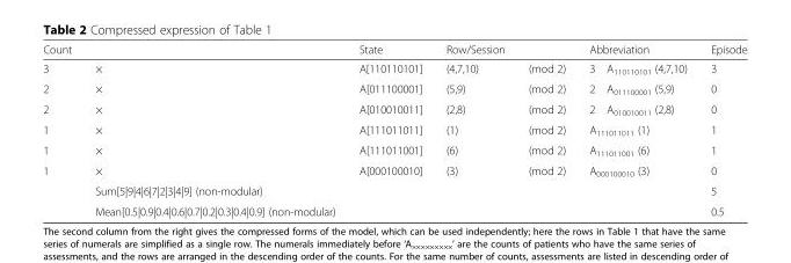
<table><thead><tr><td>Count</td><td></td><td>State</td><td>Row/Session</td><td></td><td>Abbreviation</td><td>Episode</td></tr></thead><tbody><tr><td>3</td><td>×</td><td>A[110110101]</td><td>(4,7,10)</td><td>(mod 2)</td><td>3 A110110101 (4,7,10)</td><td>3</td></tr><tr><td>2</td><td>×</td><td>A[011100001]</td><td>(5,9)</td><td>(mod 2)</td><td>2 A011100001 (5,9)</td><td>0</td></tr><tr><td>2</td><td>×</td><td>A[010010011]</td><td>(2,8)</td><td>(mod 2)</td><td>2 A010010011 (2,8)</td><td>0</td></tr><tr><td>1</td><td>×</td><td>A[111011011]</td><td>(1)</td><td>(mod 2)</td><td>A<sub>111011011</sub> (1)</td><td>1</td></tr><tr><td>1</td><td>×</td><td>A[111011001]</td><td>(6)</td><td>(mod 2)</td><td>A<sub>111011001</sub> (6)</td><td>1</td></tr><tr><td rowspan="3">1</td><td>×</td><td>A[000100010]</td><td>(3)</td><td>(mod 2)</td><td>A<sub>000100010</sub> (3)</td><td>0</td></tr><tr><td>Sum[5|9|4|6|7|2|3|4|9] (non-modular)</td><td></td><td></td><td></td><td></td><td>5</td></tr><tr><td>Mean[0.5|0.9|0.4|0.6|0.7|0.2|0.3|0.4|0.9] (non-modular)</td><td></td><td></td><td></td><td></td><td>0.5</td></tr></tbody></table>